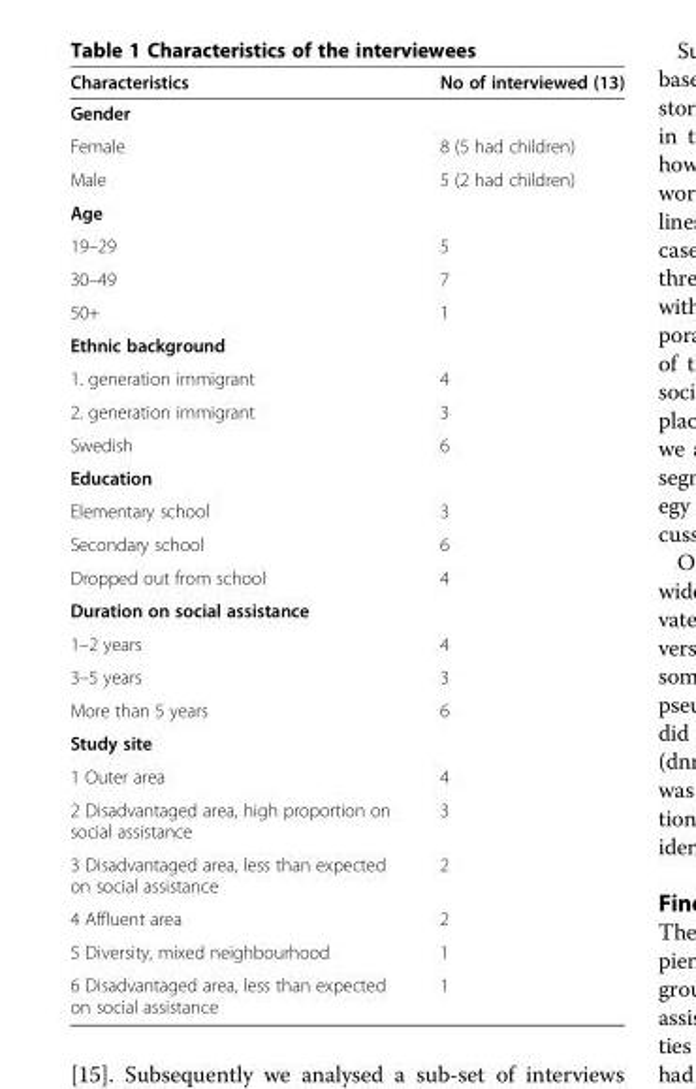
<table><thead><tr><td>Characteristics</td><td>No of interviewed (13)</td></tr></thead><tbody><tr><td colspan="2">Gender</td></tr><tr><td>Female</td><td>8 (5 had children)</td></tr><tr><td>Male</td><td>5 (2 had children)</td></tr><tr><td colspan="2">Age</td></tr><tr><td>19–29</td><td>5</td></tr><tr><td>30–49</td><td>7</td></tr><tr><td>50+</td><td>1</td></tr><tr><td colspan="2">Ethnic background</td></tr><tr><td>1. generation immigrant</td><td>4</td></tr><tr><td>2. generation immigrant</td><td>3</td></tr><tr><td>Swedish</td><td>6</td></tr><tr><td colspan="2">Education</td></tr><tr><td>Elementary school</td><td>3</td></tr><tr><td>Secondary school</td><td>6</td></tr><tr><td>Dropped out from school</td><td>4</td></tr><tr><td colspan="2">Duration on social assistance</td></tr><tr><td>1–2 years</td><td>4</td></tr><tr><td>3–5 years</td><td>3</td></tr><tr><td>More than 5 years</td><td>6</td></tr><tr><td colspan="2">Study site</td></tr><tr><td>1 Outer area</td><td>4</td></tr><tr><td>2 Disadvantaged area, high proportion on social assistance</td><td>3</td></tr><tr><td>3 Disadvantaged area, less than expected on social assistance</td><td>2</td></tr><tr><td>4 Affluent area</td><td>2</td></tr><tr><td>5 Diversity, mixed neighbourhood</td><td>1</td></tr><tr><td>6 Disadvantaged area, less than expected on social assistance</td><td>1</td></tr></tbody></table>